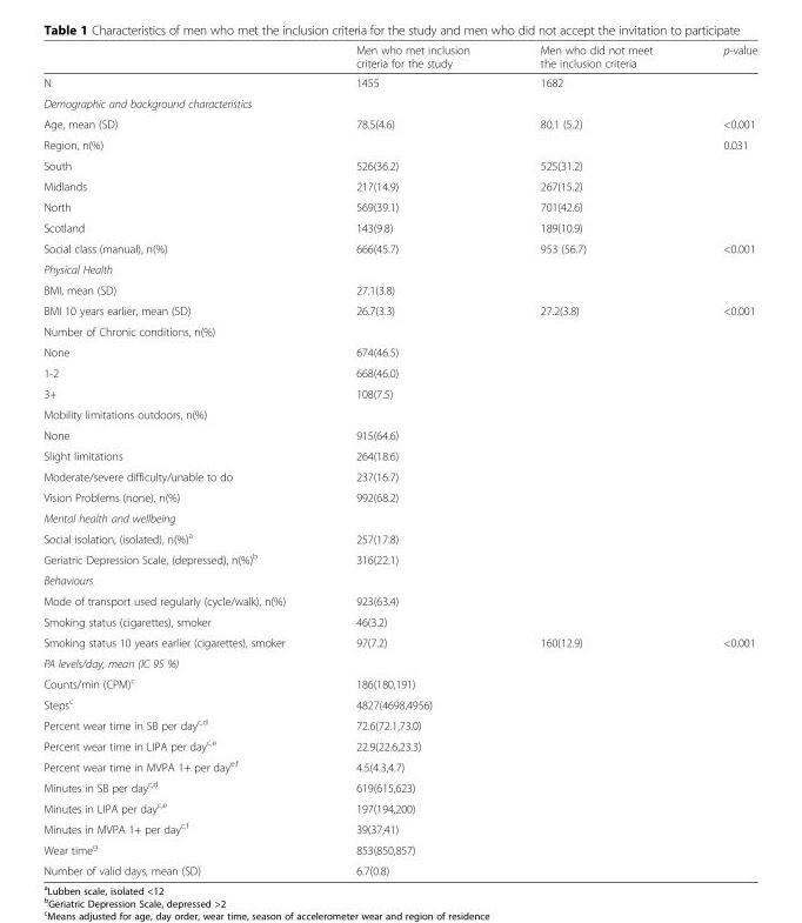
<table><thead><tr><td></td><td>Men who met inclusion criteria for the study</td><td>Men who did not meet the inclusion criteria</td><td>p-value</td></tr></thead><tbody><tr><td>N</td><td>1455</td><td>1682</td><td></td></tr><tr><td colspan="4">Demographic and background characteristics</td></tr><tr><td>Age, mean (SD)</td><td>78.5(4.6)</td><td>80.1 (5.2)</td><td>&lt;0.001</td></tr><tr><td>Region, n(%)</td><td></td><td></td><td>0.031</td></tr><tr><td>South</td><td>526(36.2)</td><td>525(31.2)</td><td></td></tr><tr><td>Midlands</td><td>217(14.9)</td><td>267(15.2)</td><td></td></tr><tr><td>North</td><td>569(39.1)</td><td>701(42.6)</td><td></td></tr><tr><td>Scotland</td><td>143(9.8)</td><td>189(10.9)</td><td></td></tr><tr><td>Social class (manual), n(%)</td><td>666(45.7)</td><td>953 (56.7)</td><td>&lt;0.001</td></tr><tr><td colspan="4">Physical Health</td></tr><tr><td>BMI, mean (SD)</td><td>27.1(3.8)</td><td></td><td></td></tr><tr><td>BMI 10 years earlier, mean (SD)</td><td>26.7(3.3)</td><td>27.2(3.8)</td><td>&lt;0.001</td></tr><tr><td colspan="4">Number of Chronic conditions, n(%)</td></tr><tr><td>None</td><td>674(46.5)</td><td></td><td></td></tr><tr><td>1-2</td><td>668(46.0)</td><td></td><td></td></tr><tr><td>3+</td><td>108(7.5)</td><td></td><td></td></tr><tr><td colspan="4">Mobility limitations outdoors, n(%)</td></tr><tr><td>None</td><td>915(64.6)</td><td></td><td></td></tr><tr><td>Slight limitations</td><td>264(18.6)</td><td></td><td></td></tr><tr><td>Moderate/severe difficulty/unable to do</td><td>237(16.7)</td><td></td><td></td></tr><tr><td>Vision Problems (none), n(%)</td><td>992(68.2)</td><td></td><td></td></tr><tr><td colspan="4">Mental health and wellbeing</td></tr><tr><td>Social isolation, (isolated), n(%)<sup>a</sup></td><td>257(17.8)</td><td></td><td></td></tr><tr><td>Geriatric Depression Scale, (depressed), n(%)<sup>b</sup></td><td>316(22.1)</td><td></td><td></td></tr><tr><td colspan="4">Behaviours</td></tr><tr><td>Mode of transport used regularly (cycle/walk), n(%)</td><td>923(63.4)</td><td></td><td></td></tr><tr><td>Smoking status (cigarettes), smoker</td><td>46(3.2)</td><td></td><td></td></tr><tr><td>Smoking status 10 years earlier (cigarettes), smoker</td><td>97(7.2)</td><td>160(12.9)</td><td>&lt;0.001</td></tr><tr><td colspan="4">PA levels/day, mean (IC 95 %)</td></tr><tr><td>Counts/min (CPM)<sup>c</sup></td><td>186(180,191)</td><td></td><td></td></tr><tr><td>Steps<sup>c</sup></td><td>4827(4698,4956)</td><td></td><td></td></tr><tr><td>Percent wear time in SB per day<sup>c,d</sup></td><td>72.6(72.1,73.0)</td><td></td><td></td></tr><tr><td>Percent wear time in LIPA per day<sup>c,e</sup></td><td>22.9(22.6,23.3)</td><td></td><td></td></tr><tr><td>Percent wear time in MVPA 1+ per day<sup>e,f</sup></td><td>4.5(4.3,4.7)</td><td></td><td></td></tr><tr><td>Minutes in SB per day<sup>c,d</sup></td><td>619(615,623)</td><td></td><td></td></tr><tr><td>Minutes in LIPA per day<sup>c,e</sup></td><td>197(194,200)</td><td></td><td></td></tr><tr><td>Minutes in MVPA 1+ per day<sup>c,f</sup></td><td>39(37,41)</td><td></td><td></td></tr><tr><td>Wear time<sup>g</sup></td><td>853(850,857)</td><td></td><td></td></tr><tr><td>Number of valid days, mean (SD)</td><td>6.7(0.8)</td><td></td><td></td></tr></tbody></table>